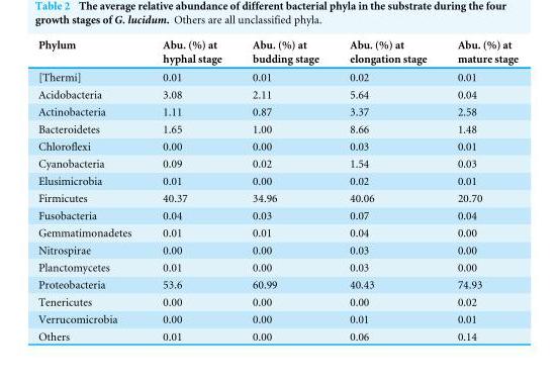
<table><thead><tr><td>Phylum</td><td>Abu. (%) at hyphal stage</td><td>Abu. (%) at budding stage</td><td>Abu. (%) at elongation stage</td><td>Abu. (%) at mature stage</td></tr></thead><tbody><tr><td>[Thermi]</td><td>0.01</td><td>0.01</td><td>0.02</td><td>0.01</td></tr><tr><td>Acidobacteria</td><td>3.08</td><td>2.11</td><td>5.64</td><td>0.04</td></tr><tr><td>Actinobacteria</td><td>1.11</td><td>0.87</td><td>3.37</td><td>2.58</td></tr><tr><td>Bacteroidetes</td><td>1.65</td><td>1.00</td><td>8.66</td><td>1.48</td></tr><tr><td>Chloroflexi</td><td>0.00</td><td>0.00</td><td>0.03</td><td>0.01</td></tr><tr><td>Cyanobacteria</td><td>0.09</td><td>0.02</td><td>1.54</td><td>0.03</td></tr><tr><td>Elusimicrobia</td><td>0.01</td><td>0.00</td><td>0.02</td><td>0.01</td></tr><tr><td>Firmicutes</td><td>40.37</td><td>34.96</td><td>40.06</td><td>20.70</td></tr><tr><td>Fusobacteria</td><td>0.04</td><td>0.03</td><td>0.07</td><td>0.04</td></tr><tr><td>Gemmatimonadetes</td><td>0.01</td><td>0.01</td><td>0.04</td><td>0.00</td></tr><tr><td>Nitrospirae</td><td>0.00</td><td>0.00</td><td>0.03</td><td>0.00</td></tr><tr><td>Planctomycetes</td><td>0.01</td><td>0.00</td><td>0.03</td><td>0.00</td></tr><tr><td>Proteobacteria</td><td>53.6</td><td>60.99</td><td>40.43</td><td>74.93</td></tr><tr><td>Tenericutes</td><td>0.00</td><td>0.00</td><td>0.00</td><td>0.02</td></tr><tr><td>Verrucomicrobia</td><td>0.00</td><td>0.00</td><td>0.01</td><td>0.01</td></tr><tr><td>Others</td><td>0.01</td><td>0.00</td><td>0.06</td><td>0.14</td></tr></tbody></table>